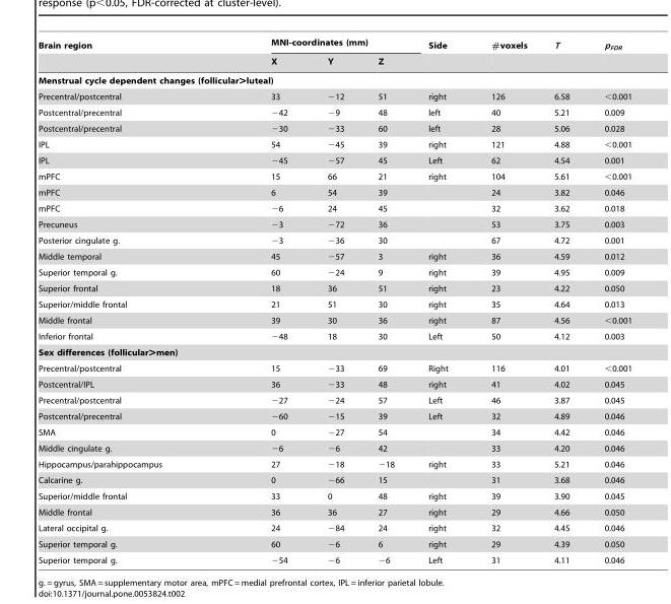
<table><thead><tr><td rowspan="2">Brain region</td><td colspan="3">MNI-coordinates (mm)</td><td rowspan="2">Side</td><td rowspan="2">#voxels</td><td rowspan="2">T</td><td rowspan="2">p<sub>FDR</sub></td></tr><tr><td>X</td><td>Y</td><td>Z</td></tr></thead><tbody><tr><td colspan="8">Menstrual cycle dependent changes (follicular&gt;luteal)</td></tr><tr><td>Precentral/postcentral</td><td>33</td><td>−12</td><td>51</td><td>right</td><td>126</td><td>6.58</td><td>&lt;0.001</td></tr><tr><td>Postcentral/precentral</td><td>−42</td><td>−9</td><td>48</td><td>left</td><td>40</td><td>5.21</td><td>0.009</td></tr><tr><td>Postcentral/precentral</td><td>−30</td><td>−33</td><td>60</td><td>left</td><td>28</td><td>5.06</td><td>0.028</td></tr><tr><td>IPL</td><td>54</td><td>−45</td><td>39</td><td>right</td><td>121</td><td>4.88</td><td>&lt;0.001</td></tr><tr><td>IPL</td><td>−45</td><td>−57</td><td>45</td><td>Left</td><td>62</td><td>4.54</td><td>0.001</td></tr><tr><td>mPFC</td><td>15</td><td>66</td><td>21</td><td>right</td><td>104</td><td>5.61</td><td>&lt;0.001</td></tr><tr><td>mPFC</td><td>6</td><td>54</td><td>39</td><td></td><td>24</td><td>3.82</td><td>0.046</td></tr><tr><td>mPFC</td><td>−6</td><td>24</td><td>45</td><td></td><td>32</td><td>3.62</td><td>0.018</td></tr><tr><td>Precuneus</td><td>−3</td><td>−72</td><td>36</td><td></td><td>53</td><td>3.75</td><td>0.003</td></tr><tr><td>Posterior cingulate g.</td><td>−3</td><td>−36</td><td>30</td><td></td><td>67</td><td>4.72</td><td>0.001</td></tr><tr><td>Middle temporal</td><td>45</td><td>−57</td><td>3</td><td>right</td><td>36</td><td>4.59</td><td>0.012</td></tr><tr><td>Superior temporal g.</td><td>60</td><td>−24</td><td>9</td><td>right</td><td>39</td><td>4.95</td><td>0.009</td></tr><tr><td>Superior frontal</td><td>18</td><td>36</td><td>51</td><td>right</td><td>23</td><td>4.22</td><td>0.050</td></tr><tr><td>Superior/middle frontal</td><td>21</td><td>51</td><td>30</td><td>right</td><td>35</td><td>4.64</td><td>0.013</td></tr><tr><td>Middle frontal</td><td>39</td><td>30</td><td>36</td><td>right</td><td>87</td><td>4.56</td><td>&lt;0.001</td></tr><tr><td>Inferior frontal</td><td>−48</td><td>18</td><td>30</td><td>Left</td><td>50</td><td>4.12</td><td>0.003</td></tr><tr><td colspan="8">Sex differences (follicular&gt;men)</td></tr><tr><td>Precentral/postcentral</td><td>15</td><td>−33</td><td>69</td><td>Right</td><td>116</td><td>4.01</td><td>&lt;0.001</td></tr><tr><td>Postcentral/IPL</td><td>36</td><td>−33</td><td>48</td><td>right</td><td>41</td><td>4.02</td><td>0.045</td></tr><tr><td>Precentral/postcentral</td><td>−27</td><td>−24</td><td>57</td><td>Left</td><td>46</td><td>3.87</td><td>0.045</td></tr><tr><td>Postcentral/precentral</td><td>−60</td><td>−15</td><td>39</td><td>Left</td><td>32</td><td>4.89</td><td>0.046</td></tr><tr><td>SMA</td><td>0</td><td>−27</td><td>54</td><td></td><td>34</td><td>4.42</td><td>0.046</td></tr><tr><td>Middle cingulate g.</td><td>−6</td><td>−6</td><td>42</td><td></td><td>33</td><td>4.20</td><td>0.046</td></tr><tr><td>Hippocampus/parahippocampus</td><td>27</td><td>−18</td><td>−18</td><td>right</td><td>33</td><td>5.21</td><td>0.046</td></tr><tr><td>Calcarine g.</td><td>0</td><td>−66</td><td>15</td><td></td><td>31</td><td>3.68</td><td>0.046</td></tr><tr><td>Superior/middle frontal</td><td>33</td><td>0</td><td>48</td><td>right</td><td>39</td><td>3.90</td><td>0.045</td></tr><tr><td>Middle frontal</td><td>36</td><td>36</td><td>27</td><td>right</td><td>29</td><td>4.66</td><td>0.050</td></tr><tr><td>Lateral occipital g.</td><td>24</td><td>−84</td><td>24</td><td>right</td><td>32</td><td>4.45</td><td>0.046</td></tr><tr><td>Superior temporal g.</td><td>60</td><td>−6</td><td>6</td><td>right</td><td>29</td><td>4.39</td><td>0.050</td></tr><tr><td>Superior temporal g.</td><td>−54</td><td>−6</td><td>−6</td><td>Left</td><td>31</td><td>4.11</td><td>0.046</td></tr></tbody></table>